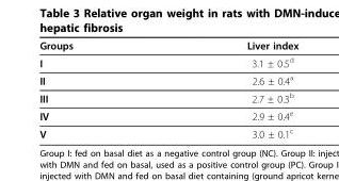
<table><thead><tr><td>Groups</td><td>Liver index</td></tr></thead><tbody><tr><td>I</td><td>3.1 ± 0.5<sup>d</sup></td></tr><tr><td>II</td><td>2.6 ± 0.4<sup>a</sup></td></tr><tr><td>III</td><td>2.7 ± 0.3<sup>b</sup></td></tr><tr><td>IV</td><td>2.9 ± 0.4<sup>e</sup></td></tr><tr><td>V</td><td>3.0 ± 0.1<sup>c</sup></td></tr></tbody></table>